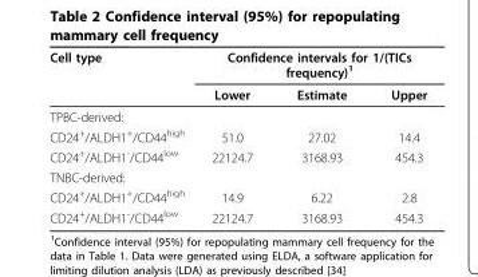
<table><thead><tr><td rowspan="2">Cell type</td><td colspan="3">Confidence intervals for 1/(TICs frequency)<sup>1</sup></td></tr><tr><td>Lower</td><td>Estimate</td><td>Upper</td></tr></thead><tbody><tr><td colspan="4">TPBC-derived:</td></tr><tr><td>CD24<sup>+</sup>/ALDH1<sup>+</sup>/CD44<sup>high</sup></td><td>51.0</td><td>27.02</td><td>14.4</td></tr><tr><td>CD24<sup>+</sup>/ALDH1<sup>-</sup>/CD44<sup>low</sup></td><td>22124.7</td><td>3168.93</td><td>454.3</td></tr><tr><td colspan="4">TNBC-derived:</td></tr><tr><td>CD24<sup>+</sup>/ALDH1<sup>+</sup>/CD44<sup>high</sup></td><td>14.9</td><td>6.22</td><td>2.8</td></tr><tr><td>CD24<sup>+</sup>/ALDH1<sup>-</sup>/CD44<sup>low</sup></td><td>22124.7</td><td>3168.93</td><td>454.3</td></tr></tbody></table>